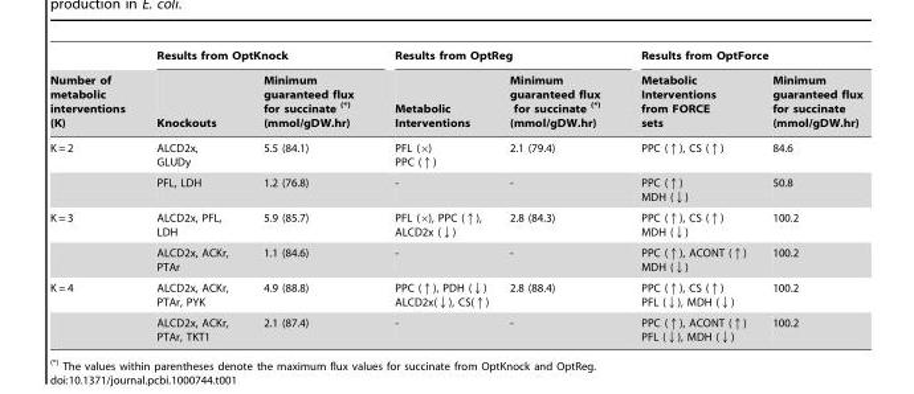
<table><thead><tr><td rowspan="2">Number of metabolic interventions (K)</td><td colspan="2">Results from OptKnock</td><td colspan="2">Results from OptReg</td><td colspan="2">Results from OptForce</td></tr><tr><td>Knockouts</td><td>Minimum guaranteed flux for succinate <sup>(*)</sup> (mmol/gDW.hr)</td><td>Metabolic Interventions</td><td>Minimum guaranteed flux for succinate <sup>(*)</sup> (mmol/gDW.hr)</td><td>Metabolic Interventions from FORCE sets</td><td>Minimum guaranteed flux for succinate (mmol/gDW.hr)</td></tr></thead><tbody><tr><td rowspan="2">K = 2</td><td>ALCD2x, GLUDy</td><td>5.5 (84.1)</td><td>PFL (×) PPC (↑)</td><td>2.1 (79.4)</td><td>PPC (↑), CS (↑)</td><td>84.6</td></tr><tr><td>PFL, LDH</td><td>1.2 (76.8)</td><td>-</td><td>-</td><td>PPC (↑) MDH (↓)</td><td>50.8</td></tr><tr><td rowspan="2">K = 3</td><td>ALCD2x, PFL, LDH</td><td>5.9 (85.7)</td><td>PFL (×), PPC (↑), ALCD2x (↓)</td><td>2.8 (84.3)</td><td>PPC (↑), CS (↑) MDH (↓)</td><td>100.2</td></tr><tr><td>ALCD2x, ACKr, PTAr</td><td>1.1 (84.6)</td><td>-</td><td>-</td><td>PPC (↑), ACONT (↑) MDH (↓)</td><td>100.2</td></tr><tr><td rowspan="2">K = 4</td><td>ALCD2x, ACKr, PTAr, PYK</td><td>4.9 (88.8)</td><td>PPC (↑), PDH (↓) ALCD2x(↓), CS(↑)</td><td>2.8 (88.4)</td><td>PPC (↑), CS (↑) PFL (↓), MDH (↓)</td><td>100.2</td></tr><tr><td>ALCD2x, ACKr, PTAr, TKT1</td><td>2.1 (87.4)</td><td>-</td><td>-</td><td>PPC (↑), ACONT (↑) PFL (↓), MDH (↓)</td><td>100.2</td></tr></tbody></table>